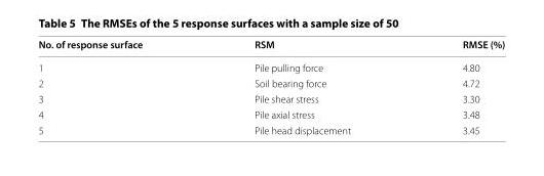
<table><thead><tr><td>No. of response surface</td><td>RSM</td><td>RMSE (%)</td></tr></thead><tbody><tr><td>1</td><td>Pile pulling force</td><td>4.80</td></tr><tr><td>2</td><td>Soil bearing force</td><td>4.72</td></tr><tr><td>3</td><td>Pile shear stress</td><td>3.30</td></tr><tr><td>4</td><td>Pile axial stress</td><td>3.48</td></tr><tr><td>5</td><td>Pile head displacement</td><td>3.45</td></tr></tbody></table>